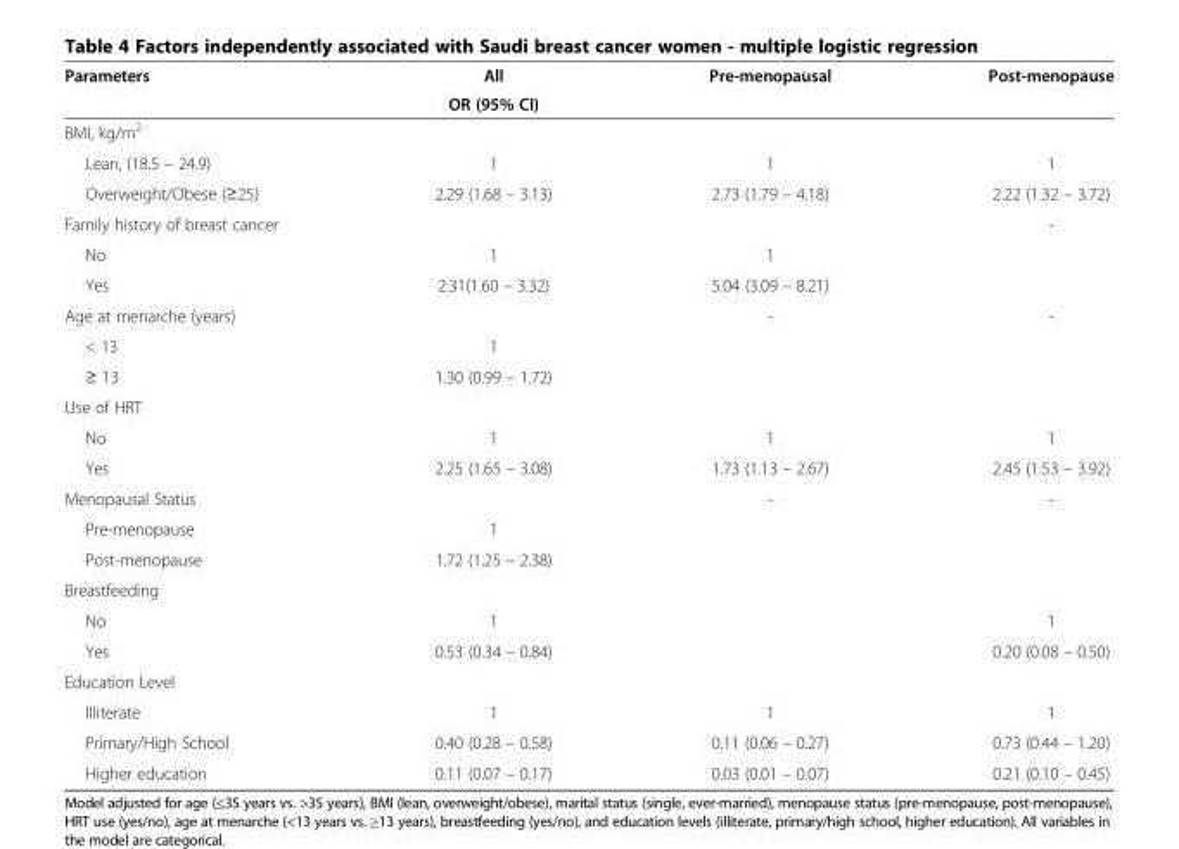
<table><thead><tr><td rowspan="2">Parameters</td><td rowspan="2">All OR (95% CI)</td><td rowspan="2">Pre-menopausal</td><td rowspan="2">Post-menopause</td></tr><tr></tr></thead><tbody><tr><td colspan="4">BMI, kg/m<sup>2</sup></td></tr><tr><td>Lean, (18.5 – 24.9)</td><td>1</td><td>1</td><td>1</td></tr><tr><td>Overweight/Obese (≥25)</td><td>2.29 (1.68 – 3.13)</td><td>2.73 (1.79 – 4.18)</td><td>2.22 (1.32 – 3.72)</td></tr><tr><td>Family history of breast cancer</td><td></td><td></td><td>-</td></tr><tr><td>No</td><td>1</td><td>1</td><td></td></tr><tr><td>Yes</td><td>2.31(1.60 – 3.32)</td><td>5.04 (3.09 – 8.21)</td><td></td></tr><tr><td>Age at menarche (years)</td><td></td><td>-</td><td>-</td></tr><tr><td>&lt; 13</td><td>1</td><td></td><td></td></tr><tr><td>≥ 13</td><td>1.30 (0.99 – 1.72)</td><td></td><td></td></tr><tr><td colspan="4">Use of HRT</td></tr><tr><td>No</td><td>1</td><td>1</td><td>1</td></tr><tr><td>Yes</td><td>2.25 (1.65 – 3.08)</td><td>1.73 (1.13 – 2.67)</td><td>2.45 (1.53 – 3.92)</td></tr><tr><td>Menopausal Status</td><td></td><td>-</td><td>-</td></tr><tr><td>Pre-menopause</td><td>1</td><td></td><td></td></tr><tr><td>Post-menopause</td><td>1.72 (1.25 – 2.38)</td><td></td><td></td></tr><tr><td colspan="4">Breastfeeding</td></tr><tr><td>No</td><td>1</td><td></td><td>1</td></tr><tr><td>Yes</td><td>0.53 (0.34 – 0.84)</td><td></td><td>0.20 (0.08 – 0.50)</td></tr><tr><td colspan="4">Education Level</td></tr><tr><td>Illiterate</td><td>1</td><td>1</td><td>1</td></tr><tr><td>Primary/High School</td><td>0.40 (0.28 – 0.58)</td><td>0.11 (0.06 – 0.27)</td><td>0.73 (0.44 – 1.20)</td></tr><tr><td>Higher education</td><td>0.11 (0.07 – 0.17)</td><td>0.03 (0.01 – 0.07)</td><td>0.21 (0.10 – 0.45)</td></tr></tbody></table>